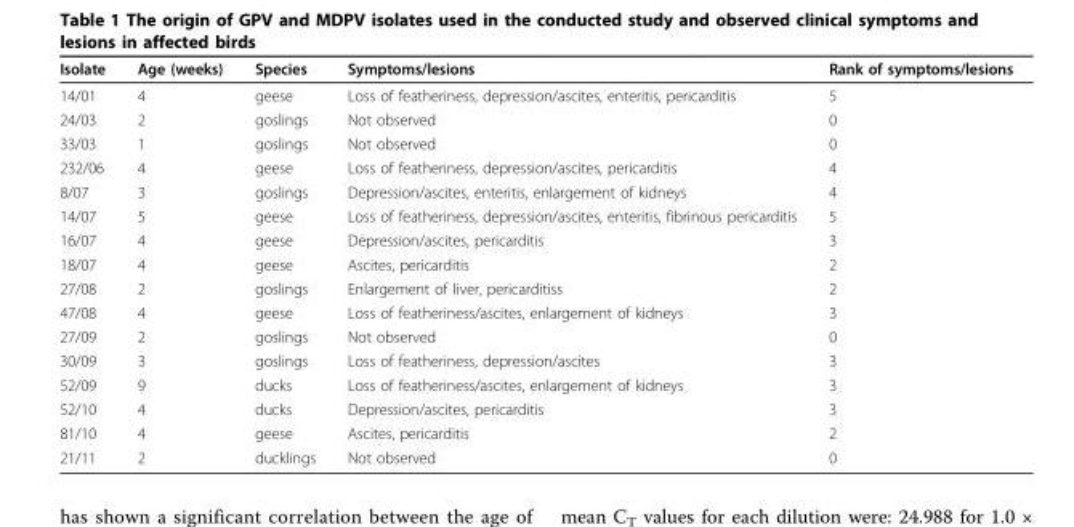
<table><thead><tr><td>Isolate</td><td>Age (weeks)</td><td>Species</td><td>Symptoms/lesions</td><td>Rank of symptoms/lesions</td></tr></thead><tbody><tr><td>14/01</td><td>4</td><td>geese</td><td>Loss of featheriness, depression/ascites, enteritis, pericarditis</td><td>5</td></tr><tr><td>24/03</td><td>2</td><td>goslings</td><td>Not observed</td><td>0</td></tr><tr><td>33/03</td><td>1</td><td>goslings</td><td>Not observed</td><td>0</td></tr><tr><td>232/06</td><td>4</td><td>geese</td><td>Loss of featheriness, depression/ascites, pericarditis</td><td>4</td></tr><tr><td>8/07</td><td>3</td><td>goslings</td><td>Depression/ascites, enteritis, enlargement of kidneys</td><td>4</td></tr><tr><td>14/07</td><td>5</td><td>geese</td><td>Loss of featheriness, depression/ascites, enteritis, fibrinous pericarditis</td><td>5</td></tr><tr><td>16/07</td><td>4</td><td>geese</td><td>Depression/ascites, pericarditis</td><td>3</td></tr><tr><td>18/07</td><td>4</td><td>geese</td><td>Ascites, pericarditis</td><td>2</td></tr><tr><td>27/08</td><td>2</td><td>goslings</td><td>Enlargement of liver, pericarditiss</td><td>2</td></tr><tr><td>47/08</td><td>4</td><td>geese</td><td>Loss of featheriness/ascites, enlargement of kidneys</td><td>3</td></tr><tr><td>27/09</td><td>2</td><td>goslings</td><td>Not observed</td><td>0</td></tr><tr><td>30/09</td><td>3</td><td>goslings</td><td>Loss of featheriness, depression/ascites</td><td>3</td></tr><tr><td>52/09</td><td>9</td><td>ducks</td><td>Loss of featheriness/ascites, enlargement of kidneys</td><td>3</td></tr><tr><td>52/10</td><td>4</td><td>ducks</td><td>Depression/ascites, pericarditis</td><td>3</td></tr><tr><td>81/10</td><td>4</td><td>geese</td><td>Ascites, pericarditis</td><td>2</td></tr><tr><td>21/11</td><td>2</td><td>ducklings</td><td>Not observed</td><td>0</td></tr></tbody></table>